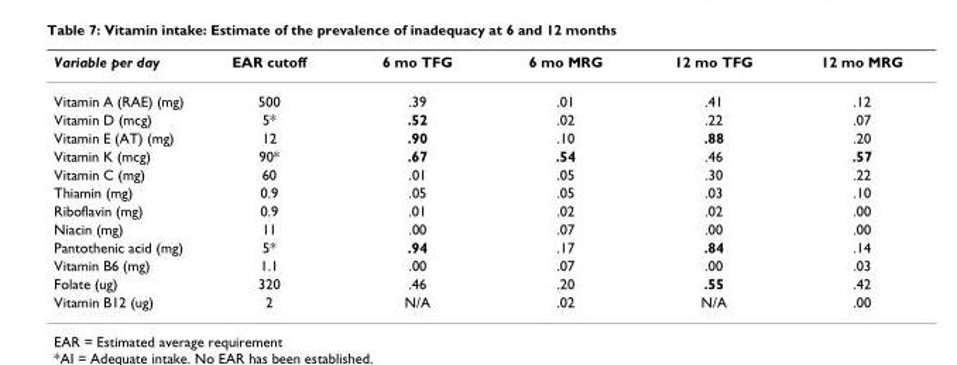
<table><thead><tr><td>Variable per day</td><td>EAR cutoff</td><td>6 mo TFG</td><td>6 mo MRG</td><td>12 mo TFG</td><td>12 mo MRG</td></tr></thead><tbody><tr><td>Vitamin A (RAE) (mg)</td><td>500</td><td>.39</td><td>.01</td><td>.41</td><td>.12</td></tr><tr><td>Vitamin D (mcg)</td><td>5*</td><td>.52</td><td>.02</td><td>.22</td><td>.07</td></tr><tr><td>Vitamin E (AT) (mg)</td><td>12</td><td>.90</td><td>.10</td><td>.88</td><td>.20</td></tr><tr><td>Vitamin K (mcg)</td><td>90*</td><td>.67</td><td>.54</td><td>.46</td><td>.57</td></tr><tr><td>Vitamin C (mg)</td><td>60</td><td>.01</td><td>.05</td><td>.30</td><td>.22</td></tr><tr><td>Thiamin (mg)</td><td>0.9</td><td>.05</td><td>.05</td><td>.03</td><td>.10</td></tr><tr><td>Riboflavin (mg)</td><td>0.9</td><td>.01</td><td>.02</td><td>.02</td><td>.00</td></tr><tr><td>Niacin (mg)</td><td>11</td><td>.00</td><td>.07</td><td>.00</td><td>.00</td></tr><tr><td>Pantothenic acid (mg)</td><td>5*</td><td>.94</td><td>.17</td><td>.84</td><td>.14</td></tr><tr><td>Vitamin B6 (mg)</td><td>1.1</td><td>.00</td><td>.07</td><td>.00</td><td>.03</td></tr><tr><td>Folate (ug)</td><td>320</td><td>.46</td><td>.20</td><td>.55</td><td>.42</td></tr><tr><td>Vitamin B12 (ug)</td><td>2</td><td>N/A</td><td>.02</td><td>N/A</td><td>.00</td></tr></tbody></table>